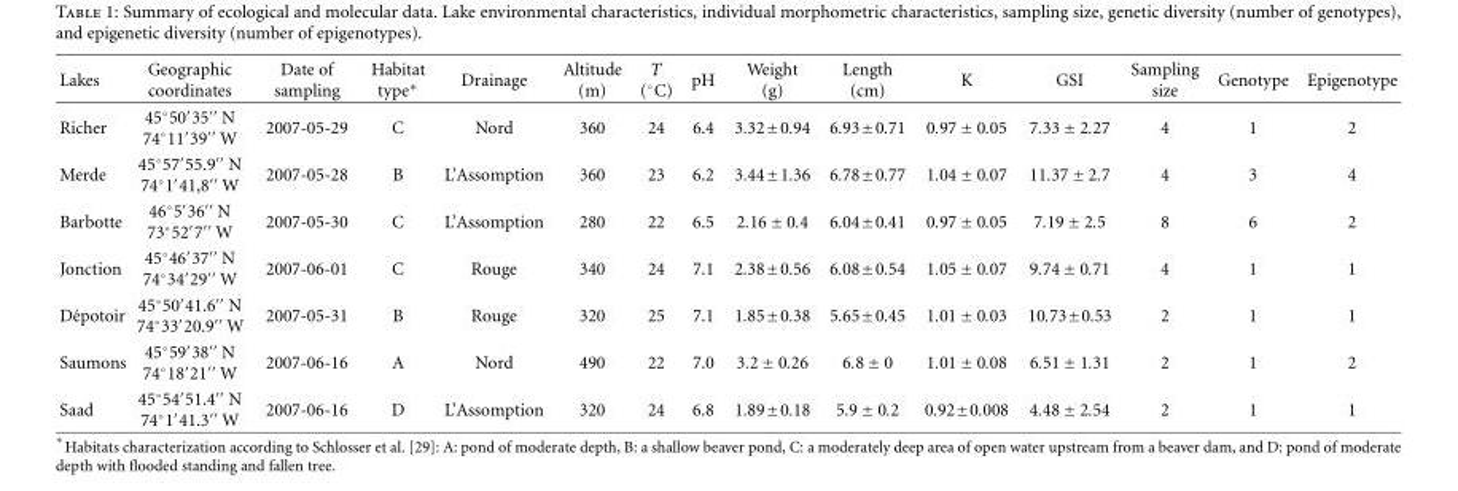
<table><thead><tr><td>Lakes</td><td>Geographic coordinates</td><td>Date of sampling</td><td>Habitat type∗</td><td>Drainage</td><td>Altitude (m)</td><td>T (◦C)</td><td>pH</td><td>Weight (g)</td><td>Length (cm)</td><td>K</td><td>GSI</td><td>Sampling size</td><td>Genotype</td><td>Epigenotype</td></tr></thead><tbody><tr><td>Richer</td><td>45◦50′35′′ N 74◦11′39′′ W</td><td>2007-05-29</td><td>C</td><td>Nord</td><td>360</td><td>24</td><td>6.4</td><td>3.32±0.94</td><td>6.93±0.71</td><td>0.97 ± 0.05</td><td>7.33 ± 2.27</td><td>4</td><td>1</td><td>2</td></tr><tr><td>Merde</td><td>45◦57′55.9′′ N 74◦1′41,8′′ W</td><td>2007-05-28</td><td>B</td><td>L’Assomption</td><td>360</td><td>23</td><td>6.2</td><td>3.44±1.36</td><td>6.78±0.77</td><td>1.04 ± 0.07</td><td>11.37 ± 2.7</td><td>4</td><td>3</td><td>4</td></tr><tr><td>Barbotte</td><td>46◦5′36′′ N 73◦52′7′′ W</td><td>2007-05-30</td><td>C</td><td>L’Assomption</td><td>280</td><td>22</td><td>6.5</td><td>2.16 ± 0.4</td><td>6.04±0.41</td><td>0.97 ± 0.05</td><td>7.19 ± 2.5</td><td>8</td><td>6</td><td>2</td></tr><tr><td>Jonction</td><td>45◦46′37′′ N 74◦34′29′′ W</td><td>2007-06-01</td><td>C</td><td>Rouge</td><td>340</td><td>24</td><td>7.1</td><td>2.38±0.56</td><td>6.08±0.54</td><td>1.05 ± 0.07</td><td>9.74 ± 0.71</td><td>4</td><td>1</td><td>1</td></tr><tr><td>D´epotoir</td><td>45◦50′41.6′′ N 74◦33′20.9′′ W</td><td>2007-05-31</td><td>B</td><td>Rouge</td><td>320</td><td>25</td><td>7.1</td><td>1.85±0.38</td><td>5.65±0.45</td><td>1.01 ± 0.03</td><td>10.73±0.53</td><td>2</td><td>1</td><td>1</td></tr><tr><td>Saumons</td><td>45◦59′38′′ N 74◦18′21′′ W</td><td>2007-06-16</td><td>A</td><td>Nord</td><td>490</td><td>22</td><td>7.0</td><td>3.2 ± 0.26</td><td>6.8 ± 0</td><td>1.01 ± 0.08</td><td>6.51 ± 1.31</td><td>2</td><td>1</td><td>2</td></tr><tr><td>Saad</td><td>45◦54′51.4′′ N 74◦1′41.3′′ W</td><td>2007-06-16</td><td>D</td><td>L’Assomption</td><td>320</td><td>24</td><td>6.8</td><td>1.89±0.18</td><td>5.9 ± 0.2</td><td>0.92±0.008</td><td>4.48 ± 2.54</td><td>2</td><td>1</td><td>1</td></tr></tbody></table>